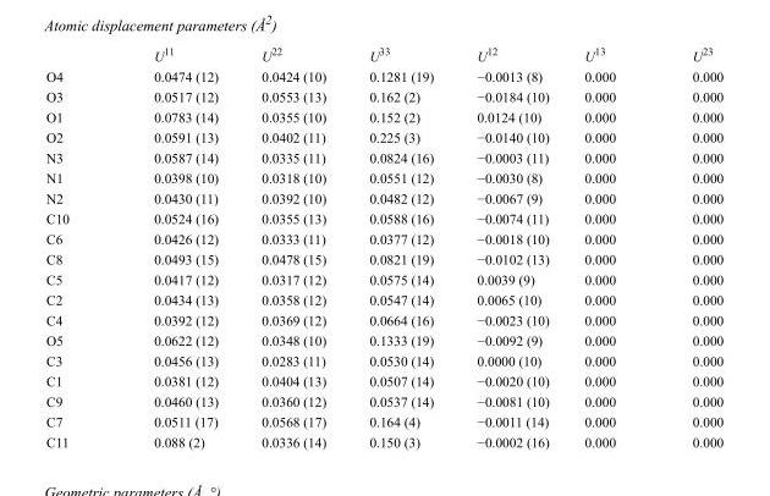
<table><thead><tr><td></td><td>U<sup>11</sup></td><td>U<sup>22</sup></td><td>U<sup>33</sup></td><td>U<sup>12</sup></td><td>U<sup>13</sup></td><td>U<sup>23</sup></td></tr></thead><tbody><tr><td>O4</td><td>0.0474 (12)</td><td>0.0424 (10)</td><td>0.1281 (19)</td><td>−0.0013 (8)</td><td>0.000</td><td>0.000</td></tr><tr><td>O3</td><td>0.0517 (12)</td><td>0.0553 (13)</td><td>0.162 (2)</td><td>−0.0184 (10)</td><td>0.000</td><td>0.000</td></tr><tr><td>O1</td><td>0.0783 (14)</td><td>0.0355 (10)</td><td>0.152 (2)</td><td>0.0124 (10)</td><td>0.000</td><td>0.000</td></tr><tr><td>O2</td><td>0.0591 (13)</td><td>0.0402 (11)</td><td>0.225 (3)</td><td>−0.0140 (10)</td><td>0.000</td><td>0.000</td></tr><tr><td>N3</td><td>0.0587 (14)</td><td>0.0335 (11)</td><td>0.0824 (16)</td><td>−0.0003 (11)</td><td>0.000</td><td>0.000</td></tr><tr><td>N1</td><td>0.0398 (10)</td><td>0.0318 (10)</td><td>0.0551 (12)</td><td>−0.0030 (8)</td><td>0.000</td><td>0.000</td></tr><tr><td>N2</td><td>0.0430 (11)</td><td>0.0392 (10)</td><td>0.0482 (12)</td><td>−0.0067 (9)</td><td>0.000</td><td>0.000</td></tr><tr><td>C10</td><td>0.0524 (16)</td><td>0.0355 (13)</td><td>0.0588 (16)</td><td>−0.0074 (11)</td><td>0.000</td><td>0.000</td></tr><tr><td>C6</td><td>0.0426 (12)</td><td>0.0333 (11)</td><td>0.0377 (12)</td><td>−0.0018 (10)</td><td>0.000</td><td>0.000</td></tr><tr><td>C8</td><td>0.0493 (15)</td><td>0.0478 (15)</td><td>0.0821 (19)</td><td>−0.0102 (13)</td><td>0.000</td><td>0.000</td></tr><tr><td>C5</td><td>0.0417 (12)</td><td>0.0317 (12)</td><td>0.0575 (14)</td><td>0.0039 (9)</td><td>0.000</td><td>0.000</td></tr><tr><td>C2</td><td>0.0434 (13)</td><td>0.0358 (12)</td><td>0.0547 (14)</td><td>0.0065 (10)</td><td>0.000</td><td>0.000</td></tr><tr><td>C4</td><td>0.0392 (12)</td><td>0.0369 (12)</td><td>0.0664 (16)</td><td>−0.0023 (10)</td><td>0.000</td><td>0.000</td></tr><tr><td>O5</td><td>0.0622 (12)</td><td>0.0348 (10)</td><td>0.1333 (19)</td><td>−0.0092 (9)</td><td>0.000</td><td>0.000</td></tr><tr><td>C3</td><td>0.0456 (13)</td><td>0.0283 (11)</td><td>0.0530 (14)</td><td>0.0000 (10)</td><td>0.000</td><td>0.000</td></tr><tr><td>C1</td><td>0.0381 (12)</td><td>0.0404 (13)</td><td>0.0507 (14)</td><td>−0.0020 (10)</td><td>0.000</td><td>0.000</td></tr><tr><td>C9</td><td>0.0460 (13)</td><td>0.0360 (12)</td><td>0.0537 (14)</td><td>−0.0081 (10)</td><td>0.000</td><td>0.000</td></tr><tr><td>C7</td><td>0.0511 (17)</td><td>0.0568 (17)</td><td>0.164 (4)</td><td>−0.0011 (14)</td><td>0.000</td><td>0.000</td></tr><tr><td>C11</td><td>0.088 (2)</td><td>0.0336 (14)</td><td>0.150 (3)</td><td>−0.0002 (16)</td><td>0.000</td><td>0.000</td></tr></tbody></table>